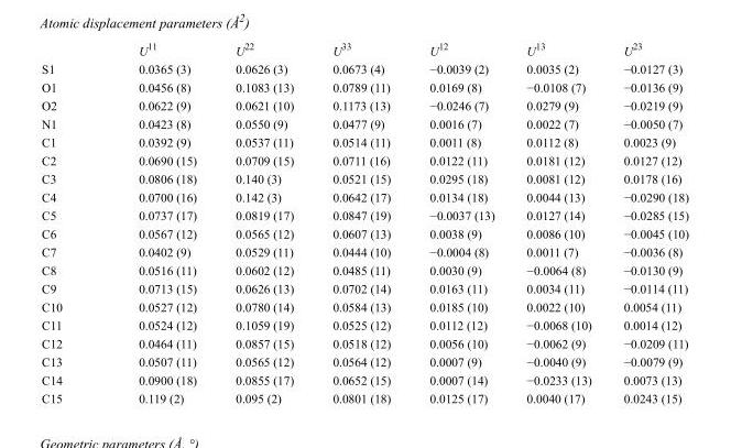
<table><thead><tr><td></td><td>U<sup>11</sup></td><td>U<sup>22</sup></td><td>U<sup>33</sup></td><td>U<sup>12</sup></td><td>U<sup>13</sup></td><td>U<sup>23</sup></td></tr></thead><tbody><tr><td>S1</td><td>0.0365 (3)</td><td>0.0626 (3)</td><td>0.0673 (4)</td><td>−0.0039 (2)</td><td>0.0035 (2)</td><td>−0.0127 (3)</td></tr><tr><td>O1</td><td>0.0456 (8)</td><td>0.1083 (13)</td><td>0.0789 (11)</td><td>0.0169 (8)</td><td>−0.0108 (7)</td><td>−0.0136 (9)</td></tr><tr><td>O2</td><td>0.0622 (9)</td><td>0.0621 (10)</td><td>0.1173 (13)</td><td>−0.0246 (7)</td><td>0.0279 (9)</td><td>−0.0219 (9)</td></tr><tr><td>N1</td><td>0.0423 (8)</td><td>0.0550 (9)</td><td>0.0477 (9)</td><td>0.0016 (7)</td><td>0.0022 (7)</td><td>−0.0050 (7)</td></tr><tr><td>C1</td><td>0.0392 (9)</td><td>0.0537 (11)</td><td>0.0514 (11)</td><td>0.0011 (8)</td><td>0.0112 (8)</td><td>0.0023 (9)</td></tr><tr><td>C2</td><td>0.0690 (15)</td><td>0.0709 (15)</td><td>0.0711 (16)</td><td>0.0122 (11)</td><td>0.0181 (12)</td><td>0.0127 (12)</td></tr><tr><td>C3</td><td>0.0806 (18)</td><td>0.140 (3)</td><td>0.0521 (15)</td><td>0.0295 (18)</td><td>0.0081 (12)</td><td>0.0178 (16)</td></tr><tr><td>C4</td><td>0.0700 (16)</td><td>0.142 (3)</td><td>0.0642 (17)</td><td>0.0134 (18)</td><td>0.0044 (13)</td><td>−0.0290 (18)</td></tr><tr><td>C5</td><td>0.0737 (17)</td><td>0.0819 (17)</td><td>0.0847 (19)</td><td>−0.0037 (13)</td><td>0.0127 (14)</td><td>−0.0285 (15)</td></tr><tr><td>C6</td><td>0.0567 (12)</td><td>0.0565 (12)</td><td>0.0607 (13)</td><td>0.0038 (9)</td><td>0.0086 (10)</td><td>−0.0045 (10)</td></tr><tr><td>C7</td><td>0.0402 (9)</td><td>0.0529 (11)</td><td>0.0444 (10)</td><td>−0.0004 (8)</td><td>0.0011 (7)</td><td>−0.0036 (8)</td></tr><tr><td>C8</td><td>0.0516 (11)</td><td>0.0602 (12)</td><td>0.0485 (11)</td><td>0.0030 (9)</td><td>−0.0064 (8)</td><td>−0.0130 (9)</td></tr><tr><td>C9</td><td>0.0713 (15)</td><td>0.0626 (13)</td><td>0.0702 (14)</td><td>0.0163 (11)</td><td>0.0034 (11)</td><td>−0.0114 (11)</td></tr><tr><td>C10</td><td>0.0527 (12)</td><td>0.0780 (14)</td><td>0.0584 (13)</td><td>0.0185 (10)</td><td>0.0022 (10)</td><td>0.0054 (11)</td></tr><tr><td>C11</td><td>0.0524 (12)</td><td>0.1059 (19)</td><td>0.0525 (12)</td><td>0.0112 (12)</td><td>−0.0068 (10)</td><td>0.0014 (12)</td></tr><tr><td>C12</td><td>0.0464 (11)</td><td>0.0857 (15)</td><td>0.0518 (12)</td><td>0.0056 (10)</td><td>−0.0062 (9)</td><td>−0.0209 (11)</td></tr><tr><td>C13</td><td>0.0507 (11)</td><td>0.0565 (12)</td><td>0.0564 (12)</td><td>0.0007 (9)</td><td>−0.0040 (9)</td><td>−0.0079 (9)</td></tr><tr><td>C14</td><td>0.0900 (18)</td><td>0.0855 (17)</td><td>0.0652 (15)</td><td>0.0007 (14)</td><td>−0.0233 (13)</td><td>0.0073 (13)</td></tr><tr><td>C15</td><td>0.119 (2)</td><td>0.095 (2)</td><td>0.0801 (18)</td><td>0.0125 (17)</td><td>0.0040 (17)</td><td>0.0243 (15)</td></tr></tbody></table>